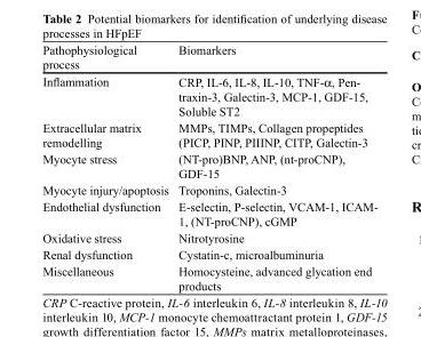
<table><thead><tr><td>Pathophysiological process</td><td>Biomarkers</td></tr></thead><tbody><tr><td>Inflammation</td><td>CRP, IL-6, IL-8, IL-10, TNF-a, Pen- traxin-3, Galectin-3, MCP-1, GDF-15, Soluble ST2</td></tr><tr><td>Extracellular matrix remodelling</td><td>MMPs, TIMPs, Collagen propeptides (PICP, PINP, PIIINP, CITP, Galectin-3</td></tr><tr><td>Myocyte stress</td><td>(NT-pro)BNP, ANP, (nt-proCNP), GDF-15</td></tr><tr><td>Myocyte injury/apoptosis</td><td>Troponins, Galectin-3</td></tr><tr><td>Endothelial dysfunction</td><td>E-selectin, P-selectin, VCAM-1, ICAM- 1, (NT-proCNP), cGMP</td></tr><tr><td>Oxidative stress</td><td>Nitrotyrosine</td></tr><tr><td>Renal dysfunction</td><td>Cystatin-c, microalbuminuria</td></tr><tr><td>Miscellaneous</td><td>Homocysteine, advanced glycation end products</td></tr></tbody></table>